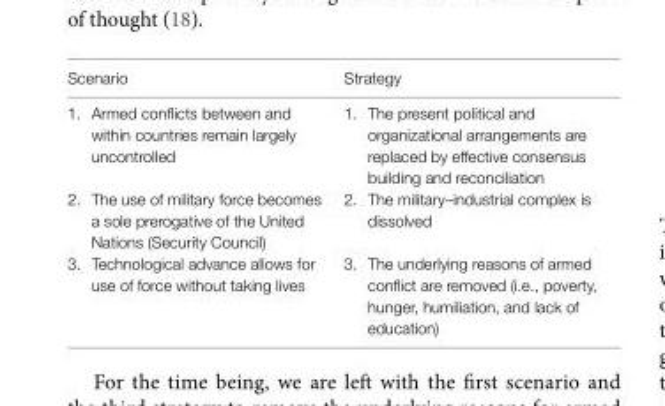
<table><tbody><tr><td>Scenario</td><td>Strategy</td></tr><tr><td>1. Armed conflicts between and within countries remain largely uncontrolled</td><td>1. The present political and organizational arrangements are replaced by effective consensus building and reconciliation</td></tr><tr><td>2. The use of military force becomes a sole prerogative of the United Nations (Security Council)</td><td>2. The military–industrial complex is dissolved</td></tr><tr><td>3. Technological advance allows for use of force without taking lives</td><td>3. The underlying reasons of armed conflict are removed (i.e., poverty, hunger, humiliation, and lack of education)</td></tr></tbody></table>